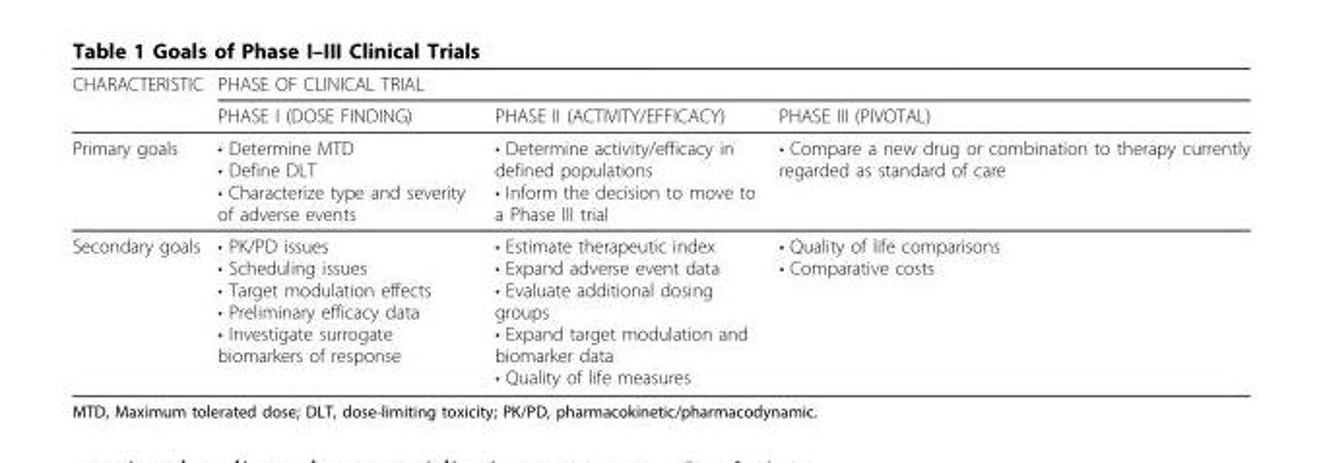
<table><thead><tr><td rowspan="2">CHARACTERISTIC</td><td colspan="3">PHASE OF CLINICAL TRIAL</td></tr><tr><td>PHASE I (DOSE FINDING)</td><td>PHASE II (ACTIVITY/EFFICACY)</td><td>PHASE III (PIVOTAL)</td></tr></thead><tbody><tr><td>Primary goals</td><td>• Determine MTD • Define DLT • Characterize type and severity of adverse events</td><td>• Determine activity/efficacy in defined populations • Inform the decision to move to a Phase III trial</td><td>• Compare a new drug or combination to therapy currently regarded as standard of care</td></tr><tr><td>Secondary goals</td><td>• PK/PD issues • Scheduling issues • Target modulation effects • Preliminary efficacy data • Investigate surrogate biomarkers of response</td><td>• Estimate therapeutic index • Expand adverse event data • Evaluate additional dosing groups • Expand target modulation and biomarker data • Quality of life measures</td><td>• Quality of life comparisons • Comparative costs</td></tr></tbody></table>